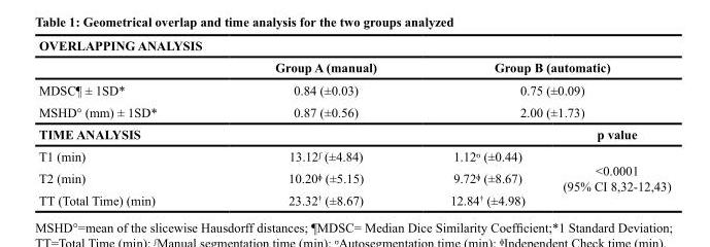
<table><thead><tr><td colspan="4">OVERLAPPING ANALYSIS</td></tr><tr><td rowspan="4">MDSC<sup>¶</sup> ± 1SD* MSHD° (mm) ± 1SD* TIME ANALYSIS</td><td rowspan="4">Group A (manual) 0.84 (±0.03) 0.87 (±0.56)</td><td rowspan="3" colspan="2">Group B (automatic) 0.75 (±0.09) 2.00 (±1.73)</td></tr><tr></tr><tr></tr><tr><td></td><td>p value</td></tr></thead><tbody><tr><td>T1 (min)</td><td>13.12<sup>ᶴ</sup> (±4.84)</td><td>1.12<sup>ᶷ</sup> (±0.44)</td><td rowspan="3">&lt;0.0001 (95% CI 8,32-12,43)</td></tr><tr><td>T2 (min)</td><td>10.20<sup>ᶲ</sup> (±5.15)</td><td>9.72<sup>ᶲ</sup> (±8.67)</td></tr><tr><td>TT (Total Time) (min)</td><td>23.32<sup>†</sup> (±8.67)</td><td>12.84<sup>†</sup> (±4.98)</td></tr></tbody></table>